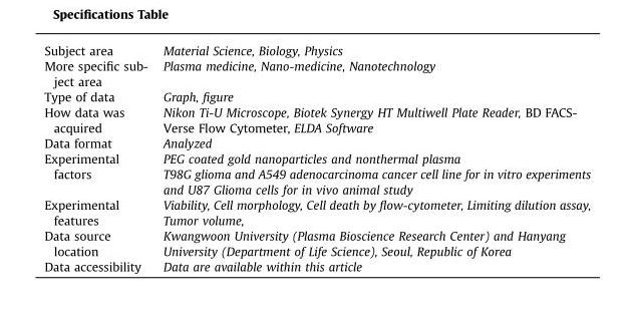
<table><tbody><tr><td>Subject area</td><td>Material Science, Biology, Physics</td></tr><tr><td>More specific sub- ject area</td><td>Plasma medicine, Nano-medicine, Nanotechnology</td></tr><tr><td>Type of data</td><td>Graph, figure</td></tr><tr><td>How data was acquired</td><td>Nikon Ti-U Microscope, Biotek Synergy HT Multiwell Plate Reader, BD FACS- Verse Flow Cytometer, ELDA Software</td></tr><tr><td>Data format</td><td>Analyzed</td></tr><tr><td rowspan="2">Experimental factors</td><td>PEG coated gold nanoparticles and nonthermal plasma</td></tr><tr><td>T98G glioma and A549 adenocarcinoma cancer cell line for in vitro experiments and U87 Glioma cells for in vivo animal study</td></tr><tr><td>Experimental features</td><td>Viability, Cell morphology, Cell death by flow-cytometer, Limiting dilution assay, Tumor volume,</td></tr><tr><td>Data source location</td><td>Kwangwoon University (Plasma Bioscience Research Center) and Hanyang University (Department of Life Science), Seoul, Republic of Korea</td></tr><tr><td>Data accessibility</td><td>Data are available within this article</td></tr></tbody></table>